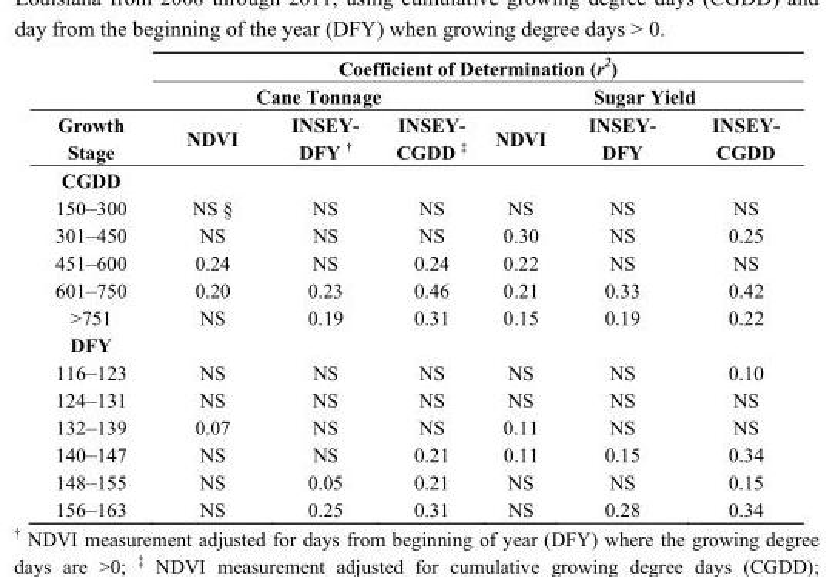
<table><thead><tr><td rowspan="3">Growth Stage</td><td colspan="6">Coefficient of Determination (r<sup>2</sup>)</td></tr><tr><td colspan="3">Cane Tonnage</td><td colspan="3">Sugar Yield</td></tr><tr><td>NDVI</td><td>INSEY- DFY <sup>†</sup></td><td>INSEY- CGDD <sup>‡</sup></td><td>NDVI</td><td>INSEY- DFY</td><td>INSEY- CGDD</td></tr></thead><tbody><tr><td colspan="7">CGDD</td></tr><tr><td>150–300</td><td>NS §</td><td>NS</td><td>NS</td><td>NS</td><td>NS</td><td>NS</td></tr><tr><td>301–450</td><td>NS</td><td>NS</td><td>NS</td><td>0.30</td><td>NS</td><td>0.25</td></tr><tr><td>451–600</td><td>0.24</td><td>NS</td><td>0.24</td><td>0.22</td><td>NS</td><td>NS</td></tr><tr><td>601–750</td><td>0.20</td><td>0.23</td><td>0.46</td><td>0.21</td><td>0.33</td><td>0.42</td></tr><tr><td>&gt;751</td><td>NS</td><td>0.19</td><td>0.31</td><td>0.15</td><td>0.19</td><td>0.22</td></tr><tr><td colspan="7">DFY</td></tr><tr><td>116–123</td><td>NS</td><td>NS</td><td>NS</td><td>NS</td><td>NS</td><td>0.10</td></tr><tr><td>124–131</td><td>NS</td><td>NS</td><td>NS</td><td>NS</td><td>NS</td><td>NS</td></tr><tr><td>132–139</td><td>0.07</td><td>NS</td><td>NS</td><td>0.11</td><td>NS</td><td>NS</td></tr><tr><td>140–147</td><td>NS</td><td>NS</td><td>0.21</td><td>0.11</td><td>0.15</td><td>0.34</td></tr><tr><td>148–155</td><td>NS</td><td>0.05</td><td>0.21</td><td>NS</td><td>NS</td><td>0.15</td></tr><tr><td>156–163</td><td>NS</td><td>0.25</td><td>0.31</td><td>NS</td><td>0.28</td><td>0.34</td></tr></tbody></table>